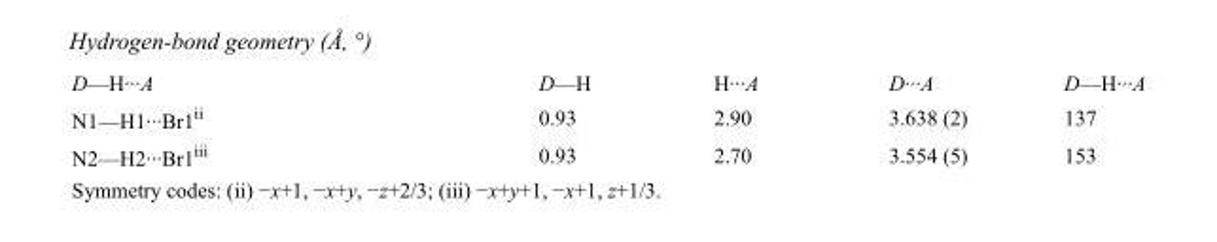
<table><tbody><tr><td>D—H···A</td><td>D—H</td><td>H···A</td><td>D···A</td><td>D—H···A</td></tr><tr><td>N1—H1···Br1<sup>ii</sup></td><td>0.93</td><td>2.90</td><td>3.638 (2)</td><td>137</td></tr><tr><td>N2—H2···Br1<sup>iii</sup></td><td>0.93</td><td>2.70</td><td>3.554 (5)</td><td>153</td></tr></tbody></table>